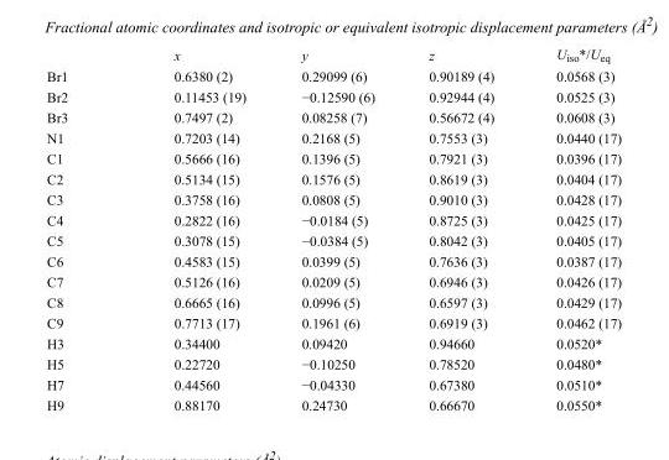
<table><thead><tr><td></td><td>x</td><td>y</td><td>z</td><td>U<sub>iso</sub>*/U<sub>eq</sub></td></tr></thead><tbody><tr><td>Br1</td><td>0.6380 (2)</td><td>0.29099 (6)</td><td>0.90189 (4)</td><td>0.0568 (3)</td></tr><tr><td>Br2</td><td>0.11453 (19)</td><td>−0.12590 (6)</td><td>0.92944 (4)</td><td>0.0525 (3)</td></tr><tr><td>Br3</td><td>0.7497 (2)</td><td>0.08258 (7)</td><td>0.56672 (4)</td><td>0.0608 (3)</td></tr><tr><td>N1</td><td>0.7203 (14)</td><td>0.2168 (5)</td><td>0.7553 (3)</td><td>0.0440 (17)</td></tr><tr><td>C1</td><td>0.5666 (16)</td><td>0.1396 (5)</td><td>0.7921 (3)</td><td>0.0396 (17)</td></tr><tr><td>C2</td><td>0.5134 (15)</td><td>0.1576 (5)</td><td>0.8619 (3)</td><td>0.0404 (17)</td></tr><tr><td>C3</td><td>0.3758 (16)</td><td>0.0808 (5)</td><td>0.9010 (3)</td><td>0.0428 (17)</td></tr><tr><td>C4</td><td>0.2822 (16)</td><td>−0.0184 (5)</td><td>0.8725 (3)</td><td>0.0425 (17)</td></tr><tr><td>C5</td><td>0.3078 (15)</td><td>−0.0384 (5)</td><td>0.8042 (3)</td><td>0.0405 (17)</td></tr><tr><td>C6</td><td>0.4583 (15)</td><td>0.0399 (5)</td><td>0.7636 (3)</td><td>0.0387 (17)</td></tr><tr><td>C7</td><td>0.5126 (16)</td><td>0.0209 (5)</td><td>0.6946 (3)</td><td>0.0426 (17)</td></tr><tr><td>C8</td><td>0.6665 (16)</td><td>0.0996 (5)</td><td>0.6597 (3)</td><td>0.0429 (17)</td></tr><tr><td>C9</td><td>0.7713 (17)</td><td>0.1961 (6)</td><td>0.6919 (3)</td><td>0.0462 (17)</td></tr><tr><td>H3</td><td>0.34400</td><td>0.09420</td><td>0.94660</td><td>0.0520*</td></tr><tr><td>H5</td><td>0.22720</td><td>−0.10250</td><td>0.78520</td><td>0.0480*</td></tr><tr><td>H7</td><td>0.44560</td><td>−0.04330</td><td>0.67380</td><td>0.0510*</td></tr><tr><td>H9</td><td>0.88170</td><td>0.24730</td><td>0.66670</td><td>0.0550*</td></tr></tbody></table>